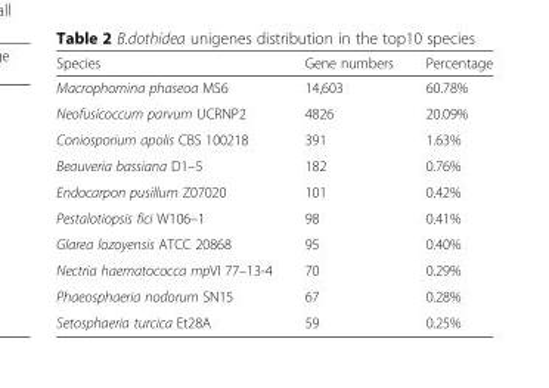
<table><thead><tr><td>Species</td><td>Gene numbers</td><td>Percentage</td></tr></thead><tbody><tr><td>Macrophomina phaseoa MS6</td><td>14,603</td><td>60.78%</td></tr><tr><td>Neofusicoccum parvum UCRNP2</td><td>4826</td><td>20.09%</td></tr><tr><td>Coniosporium apolis CBS 100218</td><td>391</td><td>1.63%</td></tr><tr><td>Beauveria bassiana D1–5</td><td>182</td><td>0.76%</td></tr><tr><td>Endocarpon pusillum Z07020</td><td>101</td><td>0.42%</td></tr><tr><td>Pestalotiopsis fici W106–1</td><td>98</td><td>0.41%</td></tr><tr><td>Glarea lozoyensis ATCC 20868</td><td>95</td><td>0.40%</td></tr><tr><td>Nectria haematococca mpVI 77–13-4</td><td>70</td><td>0.29%</td></tr><tr><td>Phaeosphaeria nodorum SN15</td><td>67</td><td>0.28%</td></tr><tr><td>Setosphaeria turcica Et28A</td><td>59</td><td>0.25%</td></tr></tbody></table>